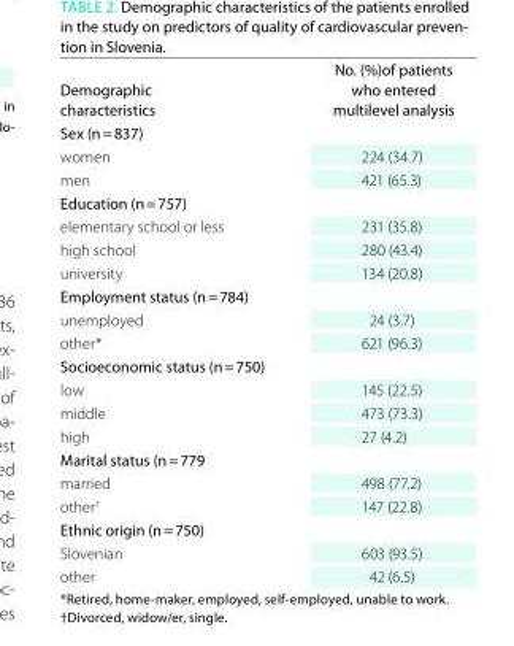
<table><thead><tr><td>Demographic characteristics</td><td>no. (%)of patients who entered multilevel analysis</td></tr></thead><tbody><tr><td colspan="2">sex (n = 837)</td></tr><tr><td>women</td><td>224 (34.7)</td></tr><tr><td>men</td><td>421 (65.3)</td></tr><tr><td colspan="2">education (n = 757)</td></tr><tr><td>elementary school or less</td><td>231 (35.8)</td></tr><tr><td>high school</td><td>280 (43.4)</td></tr><tr><td>university</td><td>134 (20.8)</td></tr><tr><td colspan="2">employment status (n = 784)</td></tr><tr><td>unemployed</td><td>24 (3.7)</td></tr><tr><td>other*</td><td>621 (96.3)</td></tr><tr><td colspan="2">socioeconomic status (n = 750)</td></tr><tr><td>low</td><td>145 (22.5)</td></tr><tr><td>middle</td><td>473 (73.3)</td></tr><tr><td>high</td><td>27 (4.2)</td></tr><tr><td colspan="2">marital status (n = 779</td></tr><tr><td>married</td><td>498 (77.2)</td></tr><tr><td>other†</td><td>147 (22.8)</td></tr><tr><td colspan="2">ethnic origin (n = 750)</td></tr><tr><td>Slovenian</td><td>603 (93.5)</td></tr><tr><td>other</td><td>42 (6.5)</td></tr></tbody></table>